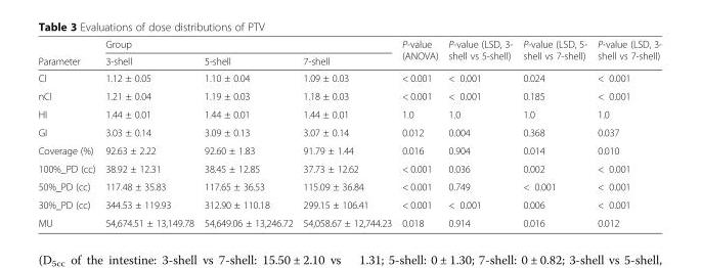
<table><thead><tr><td rowspan="2">Parameter</td><td colspan="3">Group</td><td rowspan="2">P-value (ANOVA)</td><td rowspan="2">P-value (LSD, 3- shell vs 5-shell)</td><td rowspan="2">P-value (LSD, 5- shell vs 7-shell)</td><td rowspan="2">P-value (LSD, 3- shell vs 7-shell)</td></tr><tr><td>3-shell</td><td>5-shell</td><td>7-shell</td></tr></thead><tbody><tr><td>CI</td><td>1.12 ± 0.05</td><td>1.10 ± 0.04</td><td>1.09 ± 0.03</td><td>&lt; 0.001</td><td>&lt; 0.001</td><td>0.024</td><td>&lt; 0.001</td></tr><tr><td>nCI</td><td>1.21 ± 0.04</td><td>1.19 ± 0.03</td><td>1.18 ± 0.03</td><td>&lt; 0.001</td><td>&lt; 0.001</td><td>0.185</td><td>&lt; 0.001</td></tr><tr><td>HI</td><td>1.44 ± 0.01</td><td>1.44 ± 0.01</td><td>1.44 ± 0.01</td><td>1.0</td><td>1.0</td><td>1.0</td><td>1.0</td></tr><tr><td>GI</td><td>3.03 ± 0.14</td><td>3.09 ± 0.13</td><td>3.07 ± 0.14</td><td>0.012</td><td>0.004</td><td>0.368</td><td>0.037</td></tr><tr><td>Coverage (%)</td><td>92.63 ± 2.22</td><td>92.60 ± 1.83</td><td>91.79 ± 1.44</td><td>0.016</td><td>0.904</td><td>0.014</td><td>0.010</td></tr><tr><td>100%_PD (cc)</td><td>38.92 ± 12.31</td><td>38.45 ± 12.85</td><td>37.73 ± 12.62</td><td>&lt; 0.001</td><td>0.036</td><td>0.002</td><td>&lt; 0.001</td></tr><tr><td>50%_PD (cc)</td><td>117.48 ± 35.83</td><td>117.65 ± 36.53</td><td>115.09 ± 36.84</td><td>&lt; 0.001</td><td>0.749</td><td>&lt; 0.001</td><td>&lt; 0.001</td></tr><tr><td>30%_PD (cc)</td><td>344.53 ± 119.93</td><td>312.90 ± 110.18</td><td>299.15 ± 106.41</td><td>&lt; 0.001</td><td>&lt; 0.001</td><td>0.006</td><td>&lt; 0.001</td></tr><tr><td>MU</td><td>54,674.51 ± 13,149.78</td><td>54,649.06 ± 13,246.72</td><td>54,058.67 ± 12,744.23</td><td>0.018</td><td>0.914</td><td>0.016</td><td>0.012</td></tr></tbody></table>